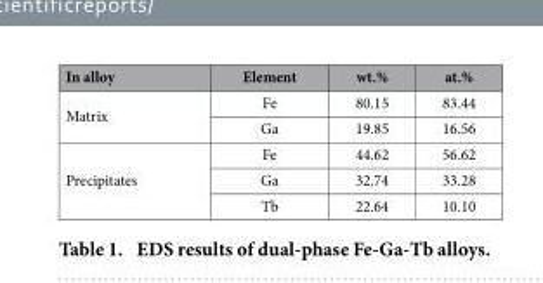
<table><thead><tr><td>In alloy</td><td>Element</td><td>wt.%</td><td>at.%</td></tr></thead><tbody><tr><td rowspan="2">Matrix</td><td>Fe</td><td>80.15</td><td>83.44</td></tr><tr><td>Ga</td><td>19.85</td><td>16.56</td></tr><tr><td rowspan="3">Precipitates</td><td>Fe</td><td>44.62</td><td>56.62</td></tr><tr><td>Ga</td><td>32.74</td><td>33.28</td></tr><tr><td>Tb</td><td>22.64</td><td>10.10</td></tr></tbody></table>